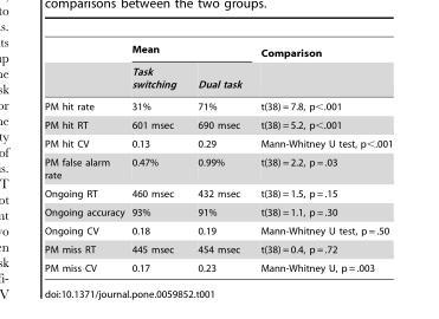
<table><thead><tr><td rowspan="2"></td><td colspan="2">Mean</td><td rowspan="2">Comparison</td></tr><tr><td>Task switching</td><td>Dual task</td></tr></thead><tbody><tr><td>PM hit rate</td><td>31%</td><td>71%</td><td>t(38) = 7.8, p&lt;.001</td></tr><tr><td>PM hit RT</td><td>601 msec</td><td>690 msec</td><td>t(38) = 5.2, p&lt;.001</td></tr><tr><td>PM hit CV</td><td>0.13</td><td>0.29</td><td>Mann-Whitney U test, p&lt;.001</td></tr><tr><td>PM false alarm rate</td><td>0.47%</td><td>0.99%</td><td>t(38) = 2.2, p = .03</td></tr><tr><td>Ongoing RT</td><td>460 msec</td><td>432 msec</td><td>t(38) = 1.5, p = .15</td></tr><tr><td>Ongoing accuracy</td><td>93%</td><td>91%</td><td>t(38) = 1.1, p = .30</td></tr><tr><td>Ongoing CV</td><td>0.18</td><td>0.19</td><td>Mann-Whitney U test, p = .50</td></tr><tr><td>PM miss RT</td><td>445 msec</td><td>454 msec</td><td>t(38) = 0.4, p = .72</td></tr><tr><td>PM miss CV</td><td>0.17</td><td>0.23</td><td>Mann-Whitney U, p = .003</td></tr></tbody></table>